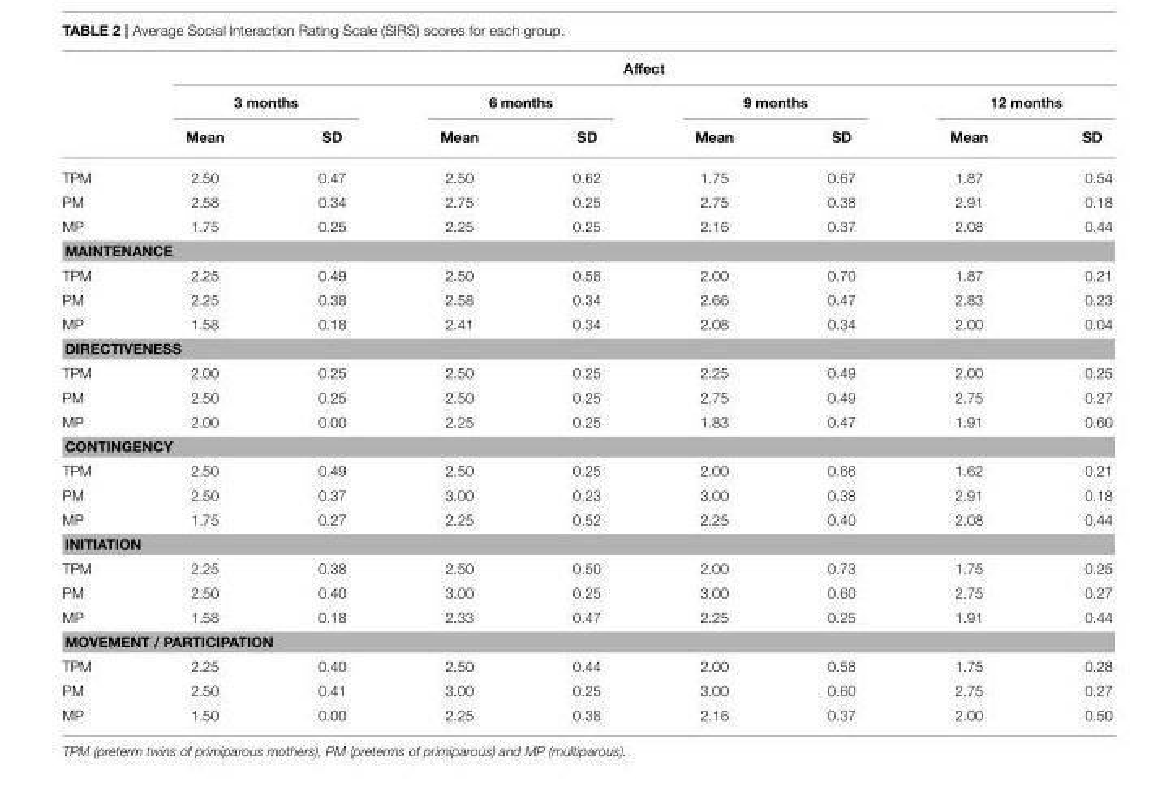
<table><thead><tr><td rowspan="3"></td><td colspan="8">Affect</td></tr><tr><td colspan="2">3 months</td><td colspan="2">6 months</td><td colspan="2">9 months</td><td colspan="2">12 months</td></tr><tr><td>Mean</td><td>SD</td><td>Mean</td><td>SD</td><td>Mean</td><td>SD</td><td>Mean</td><td>SD</td></tr></thead><tbody><tr><td>TPM</td><td>2.50</td><td>0.47</td><td>2.50</td><td>0.62</td><td>1.75</td><td>0.67</td><td>1.87</td><td>0.54</td></tr><tr><td>PM</td><td>2.58</td><td>0.34</td><td>2.75</td><td>0.25</td><td>2.75</td><td>0.38</td><td>2.91</td><td>0.18</td></tr><tr><td>MP</td><td>1.75</td><td>0.25</td><td>2.25</td><td>0.25</td><td>2.16</td><td>0.37</td><td>2.08</td><td>0.44</td></tr><tr><td colspan="9">MAINTENANCE</td></tr><tr><td>TPM</td><td>2.25</td><td>0.49</td><td>2.50</td><td>0.58</td><td>2.00</td><td>0.70</td><td>1.87</td><td>0.21</td></tr><tr><td>PM</td><td>2.25</td><td>0.38</td><td>2.58</td><td>0.34</td><td>2.66</td><td>0.47</td><td>2.83</td><td>0.23</td></tr><tr><td>MP</td><td>1.58</td><td>0.18</td><td>2.41</td><td>0.34</td><td>2.08</td><td>0.34</td><td>2.00</td><td>0.04</td></tr><tr><td colspan="9">DIRECTIVENESS</td></tr><tr><td>TPM</td><td>2.00</td><td>0.25</td><td>2.50</td><td>0.25</td><td>2.25</td><td>0.49</td><td>2.00</td><td>0.25</td></tr><tr><td>PM</td><td>2.50</td><td>0.25</td><td>2.50</td><td>0.25</td><td>2.75</td><td>0.49</td><td>2.75</td><td>0.27</td></tr><tr><td>MP</td><td>2.00</td><td>0.00</td><td>2.25</td><td>0.25</td><td>1.83</td><td>0.47</td><td>1.91</td><td>0.60</td></tr><tr><td colspan="9">CONTINGENCY</td></tr><tr><td>TPM</td><td>2.50</td><td>0.49</td><td>2.50</td><td>0.25</td><td>2.00</td><td>0.66</td><td>1.62</td><td>0.21</td></tr><tr><td>PM</td><td>2.50</td><td>0.37</td><td>3.00</td><td>0.23</td><td>3.00</td><td>0.38</td><td>2.91</td><td>0.18</td></tr><tr><td>MP</td><td>1.75</td><td>0.27</td><td>2.25</td><td>0.52</td><td>2.25</td><td>0.40</td><td>2.08</td><td>0.44</td></tr><tr><td colspan="9">INITIATION</td></tr><tr><td>TPM</td><td>2.25</td><td>0.38</td><td>2.50</td><td>0.50</td><td>2.00</td><td>0.73</td><td>1.75</td><td>0.25</td></tr><tr><td>PM</td><td>2.50</td><td>0.40</td><td>3.00</td><td>0.25</td><td>3.00</td><td>0.60</td><td>2.75</td><td>0.27</td></tr><tr><td>MP</td><td>1.58</td><td>0.18</td><td>2.33</td><td>0.47</td><td>2.25</td><td>0.25</td><td>1.91</td><td>0.44</td></tr><tr><td colspan="9">MOVEMENT / PARTICIPATION</td></tr><tr><td>TPM</td><td>2.25</td><td>0.40</td><td>2.50</td><td>0.44</td><td>2.00</td><td>0.58</td><td>1.75</td><td>0.28</td></tr><tr><td>PM</td><td>2.50</td><td>0.41</td><td>3.00</td><td>0.25</td><td>3.00</td><td>0.60</td><td>2.75</td><td>0.27</td></tr><tr><td>MP</td><td>1.50</td><td>0.00</td><td>2.25</td><td>0.38</td><td>2.16</td><td>0.37</td><td>2.00</td><td>0.50</td></tr></tbody></table>